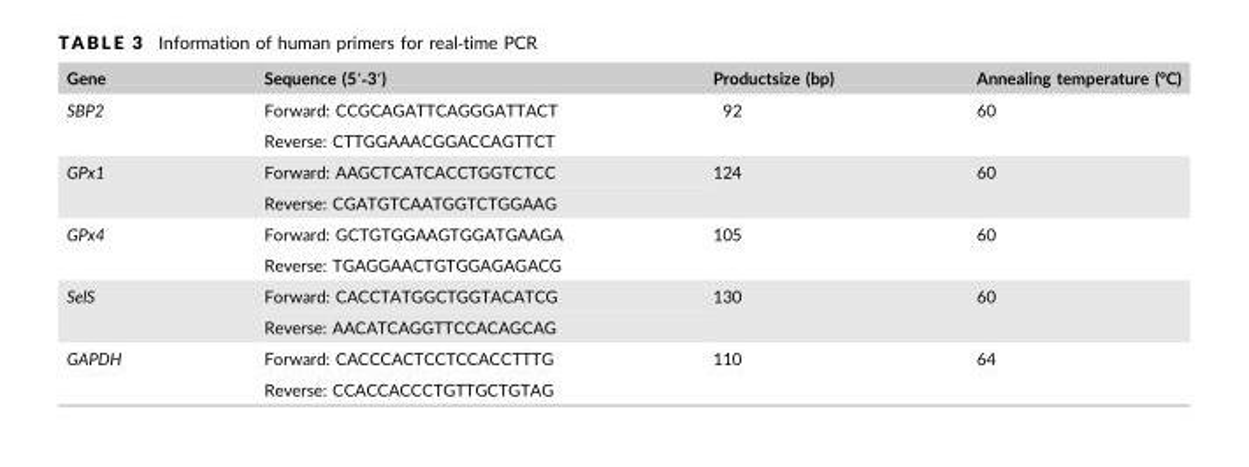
<table><thead><tr><td>Gene</td><td>Sequence (5′‐3′)</td><td>Productsize (bp)</td><td>Annealing temperature (°C)</td></tr></thead><tbody><tr><td rowspan="2">SBP2</td><td>Forward: CCGCAGATTCAGGGATTACT</td><td rowspan="2">92</td><td rowspan="2">60</td></tr><tr><td>Reverse: CTTGGAAACGGACCAGTTCT</td></tr><tr><td rowspan="2">GPx1</td><td>Forward: AAGCTCATCACCTGGTCTCC</td><td rowspan="2">124</td><td rowspan="2">60</td></tr><tr><td>Reverse: CGATGTCAATGGTCTGGAAG</td></tr><tr><td rowspan="2">GPx4</td><td>Forward: GCTGTGGAAGTGGATGAAGA</td><td rowspan="2">105</td><td rowspan="2">60</td></tr><tr><td>Reverse: TGAGGAACTGTGGAGAGACG</td></tr><tr><td rowspan="2">SelS</td><td>Forward: CACCTATGGCTGGTACATCG</td><td rowspan="2">130</td><td rowspan="2">60</td></tr><tr><td>Reverse: AACATCAGGTTCCACAGCAG</td></tr><tr><td rowspan="2">GAPDH</td><td>Forward: CACCCACTCCTCCACCTTTG</td><td rowspan="2">110</td><td rowspan="2">64</td></tr><tr><td>Reverse: CCACCACCCTGTTGCTGTAG</td></tr></tbody></table>